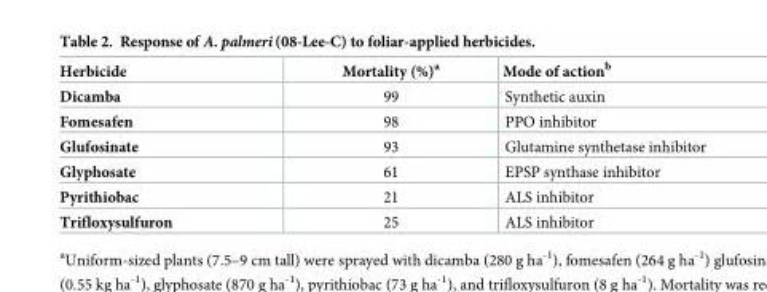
<table><thead><tr><td>Herbicide</td><td>Mortality (%)<sup>a</sup></td><td>Mode of action<sup>b</sup></td></tr></thead><tbody><tr><td>Dicamba</td><td>99</td><td>Synthetic auxin</td></tr><tr><td>Fomesafen</td><td>98</td><td>PPO inhibitor</td></tr><tr><td>Glufosinate</td><td>93</td><td>Glutamine synthetase inhibitor</td></tr><tr><td>Glyphosate</td><td>61</td><td>EPSP synthase inhibitor</td></tr><tr><td>Pyrithiobac</td><td>21</td><td>ALS inhibitor</td></tr><tr><td>Trifloxysulfuron</td><td>25</td><td>ALS inhibitor</td></tr></tbody></table>